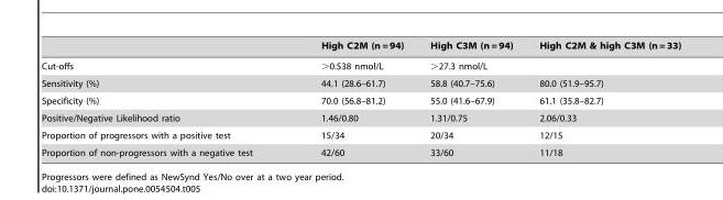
<table><thead><tr><td></td><td>High C2M (n = 94)</td><td>High C3M (n = 94)</td><td>High C2M &amp; high C3M (n = 33)</td></tr></thead><tbody><tr><td>Cut-offs</td><td>&gt;0.538 nmol/L</td><td>&gt;27.3 nmol/L</td><td></td></tr><tr><td>Sensitivity (%)</td><td>44.1 (28.6–61.7)</td><td>58.8 (40.7–75.6)</td><td>80.0 (51.9–95.7)</td></tr><tr><td>Specificity (%)</td><td>70.0 (56.8–81.2)</td><td>55.0 (41.6–67.9)</td><td>61.1 (35.8–82.7)</td></tr><tr><td>Positive/Negative Likelihood ratio</td><td>1.46/0.80</td><td>1.31/0.75</td><td>2.06/0.33</td></tr><tr><td>Proportion of progressors with a positive test</td><td>15/34</td><td>20/34</td><td>12/15</td></tr><tr><td>Proportion of non-progressors with a negative test</td><td>42/60</td><td>33/60</td><td>11/18</td></tr></tbody></table>